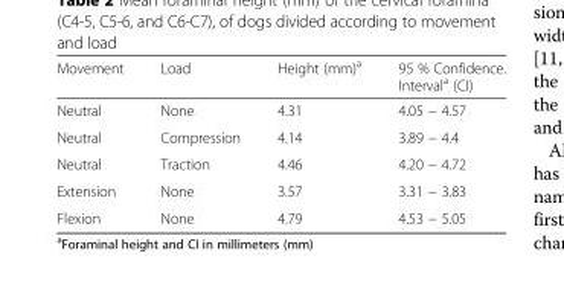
<table><thead><tr><td>Movement</td><td>Load</td><td>Height (mm)<sup>a</sup></td><td>95 % Confidence. Interval<sup>a</sup> (CI)</td></tr></thead><tbody><tr><td>Neutral</td><td>None</td><td>4.31</td><td>4.05 − 4.57</td></tr><tr><td>Neutral</td><td>Compression</td><td>4.14</td><td>3.89 − 4.4</td></tr><tr><td>Neutral</td><td>Traction</td><td>4.46</td><td>4.20 − 4.72</td></tr><tr><td>Extension</td><td>None</td><td>3.57</td><td>3.31 − 3.83</td></tr><tr><td>Flexion</td><td>None</td><td>4.79</td><td>4.53 − 5.05</td></tr></tbody></table>